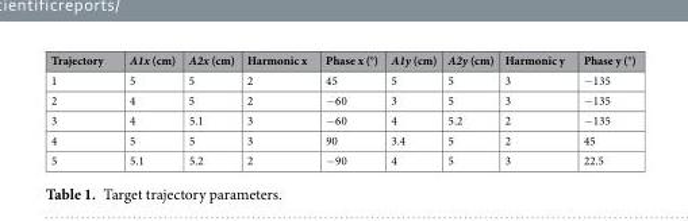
<table><thead><tr><td>Trajectory</td><td>A1x (cm)</td><td>A2x (cm)</td><td>Harmonic x</td><td>Phase x (°)</td><td>A1y (cm)</td><td>A2y (cm)</td><td>Harmonic y</td><td>Phase y (°)</td></tr></thead><tbody><tr><td>1</td><td>5</td><td>5</td><td>2</td><td>45</td><td>5</td><td>5</td><td>3</td><td>−135</td></tr><tr><td>2</td><td>4</td><td>5</td><td>2</td><td>−60</td><td>3</td><td>5</td><td>3</td><td>−135</td></tr><tr><td>3</td><td>4</td><td>5.1</td><td>3</td><td>−60</td><td>4</td><td>5.2</td><td>2</td><td>−135</td></tr><tr><td>4</td><td>5</td><td>5</td><td>3</td><td>90</td><td>3.4</td><td>5</td><td>2</td><td>45</td></tr><tr><td>5</td><td>5.1</td><td>5.2</td><td>2</td><td>−90</td><td>4</td><td>5</td><td>3</td><td>22.5</td></tr></tbody></table>